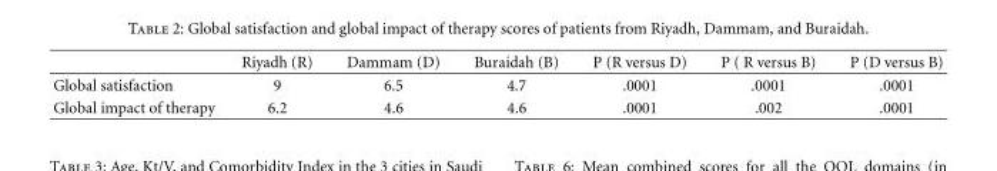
<table><thead><tr><td></td><td>Riyadh (R)</td><td>Dammam (D)</td><td>Buraidah (B)</td><td>P (R versus D)</td><td>P ( R versus B)</td><td>P (D versus B)</td></tr></thead><tbody><tr><td>Global satisfaction</td><td>9</td><td>6.5</td><td>4.7</td><td>.0001</td><td>.0001</td><td>.0001</td></tr><tr><td>Global impact of therapy</td><td>6.2</td><td>4.6</td><td>4.6</td><td>.0001</td><td>.002</td><td>.0001</td></tr></tbody></table>